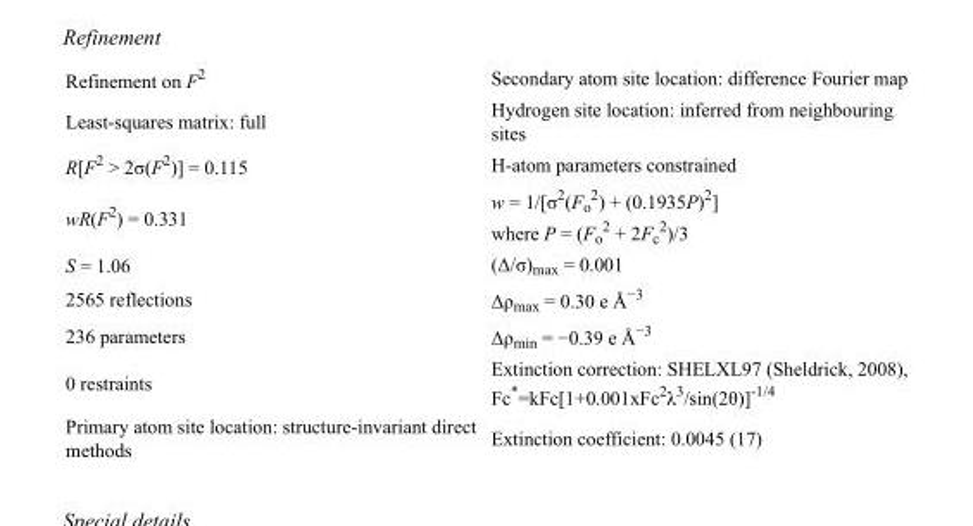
<table><tbody><tr><td>Refinement on F<sup>2</sup></td><td>Secondary atom site location: difference Fourier map</td></tr><tr><td>Least-squares matrix: full</td><td>Hydrogen site location: inferred from neighbouring sites</td></tr><tr><td>R[F<sup>2</sup> &gt; 2σ(F<sup>2</sup>)] = 0.115</td><td>H-atom parameters constrained</td></tr><tr><td>wR(F<sup>2</sup>) = 0.331</td><td>w = 1/[σ<sup>2</sup>(F<sub>o</sub> <sup>2</sup>) + (0.1935P)<sup>2</sup>] where P = (F<sub>o</sub> <sup>2</sup> + 2F<sub>c</sub> <sup>2</sup>)/3</td></tr><tr><td>S = 1.06</td><td>(Δ/σ)<sub>max</sub> = 0.001</td></tr><tr><td>2565 reflections</td><td>Δρ<sub>max</sub> = 0.30 e Å<sup>−3</sup></td></tr><tr><td>236 parameters</td><td>Δρ<sub>min</sub> = −0.39 e Å<sup>−3</sup></td></tr><tr><td>0 restraints</td><td>Extinction correction: SHELXL97 (Sheldrick, 2008), Fc*=kFc[1+0.001xFc<sup>2</sup>λ<sup>3</sup>/sin(2θ)]<sup>-1/4</sup></td></tr><tr><td>Primary atom site location: structure-invariant direct methods</td><td>Extinction coefficient: 0.0045 (17)</td></tr></tbody></table>